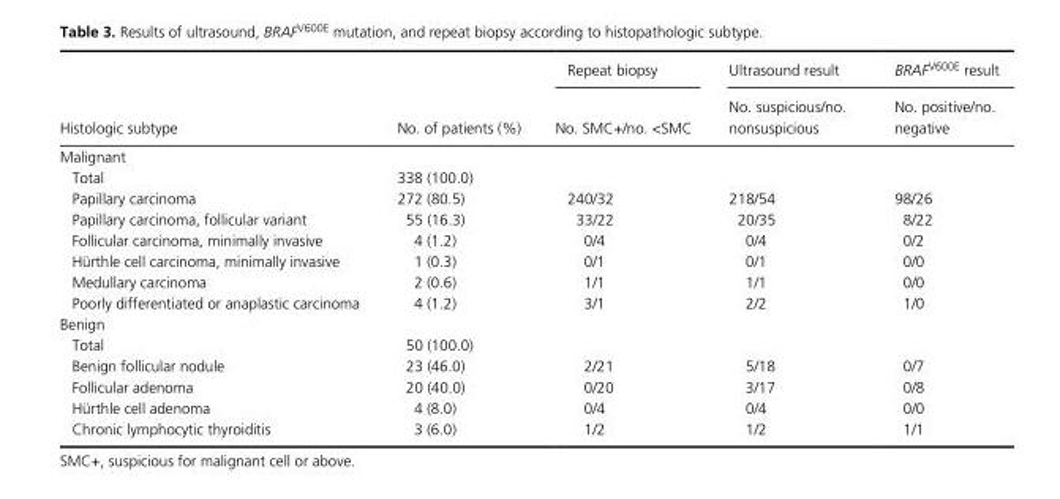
<table><thead><tr><td rowspan="2">Histologic subtype</td><td rowspan="2">No. of patients (%)</td><td rowspan="2">Repeat biopsy No. SMC+/no. &lt;SMC</td><td rowspan="2">Ultrasound result No. suspicious/no. nonsuspicious</td><td rowspan="2">BRAF<sup>V600E</sup> result No. positive/no. negative</td></tr><tr></tr></thead><tbody><tr><td colspan="5">Malignant</td></tr><tr><td>Total</td><td>338 (100.0)</td><td></td><td></td><td></td></tr><tr><td>Papillary carcinoma</td><td>272 (80.5)</td><td>240/32</td><td>218/54</td><td>98/26</td></tr><tr><td>Papillary carcinoma, follicular variant</td><td>55 (16.3)</td><td>33/22</td><td>20/35</td><td>8/22</td></tr><tr><td>Follicular carcinoma, minimally invasive</td><td>4 (1.2)</td><td>0/4</td><td>0/4</td><td>0/2</td></tr><tr><td>Hürthle cell carcinoma, minimally invasive</td><td>1 (0.3)</td><td>0/1</td><td>0/1</td><td>0/0</td></tr><tr><td>Medullary carcinoma</td><td>2 (0.6)</td><td>1/1</td><td>1/1</td><td>0/0</td></tr><tr><td>Poorly differentiated or anaplastic carcinoma</td><td>4 (1.2)</td><td>3/1</td><td>2/2</td><td>1/0</td></tr><tr><td colspan="5">Benign</td></tr><tr><td>Total</td><td>50 (100.0)</td><td></td><td></td><td></td></tr><tr><td>Benign follicular nodule</td><td>23 (46.0)</td><td>2/21</td><td>5/18</td><td>0/7</td></tr><tr><td>Follicular adenoma</td><td>20 (40.0)</td><td>0/20</td><td>3/17</td><td>0/8</td></tr><tr><td>Hürthle cell adenoma</td><td>4 (8.0)</td><td>0/4</td><td>0/4</td><td>0/0</td></tr><tr><td>Chronic lymphocytic thyroiditis</td><td>3 (6.0)</td><td>1/2</td><td>1/2</td><td>1/1</td></tr></tbody></table>